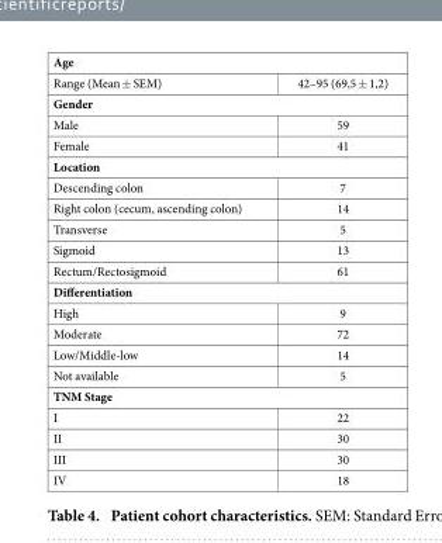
<table><tbody><tr><td colspan="2">Age</td></tr><tr><td>Range (Mean ± SEM)</td><td>42–95 (69,5 ± 1,2)</td></tr><tr><td colspan="2">Gender</td></tr><tr><td>Male</td><td>59</td></tr><tr><td>Female</td><td>41</td></tr><tr><td colspan="2">Location</td></tr><tr><td>Descending colon</td><td>7</td></tr><tr><td>Right colon (cecum, ascending colon)</td><td>14</td></tr><tr><td>Transverse</td><td>5</td></tr><tr><td>Sigmoid</td><td>13</td></tr><tr><td>Rectum/Rectosigmoid</td><td>61</td></tr><tr><td colspan="2">Differentiation</td></tr><tr><td>High</td><td>9</td></tr><tr><td>Moderate</td><td>72</td></tr><tr><td>Low/Middle-low</td><td>14</td></tr><tr><td>Not available</td><td>5</td></tr><tr><td colspan="2">TNM Stage</td></tr><tr><td>I</td><td>22</td></tr><tr><td>II</td><td>30</td></tr><tr><td>III</td><td>30</td></tr><tr><td>IV</td><td>18</td></tr></tbody></table>